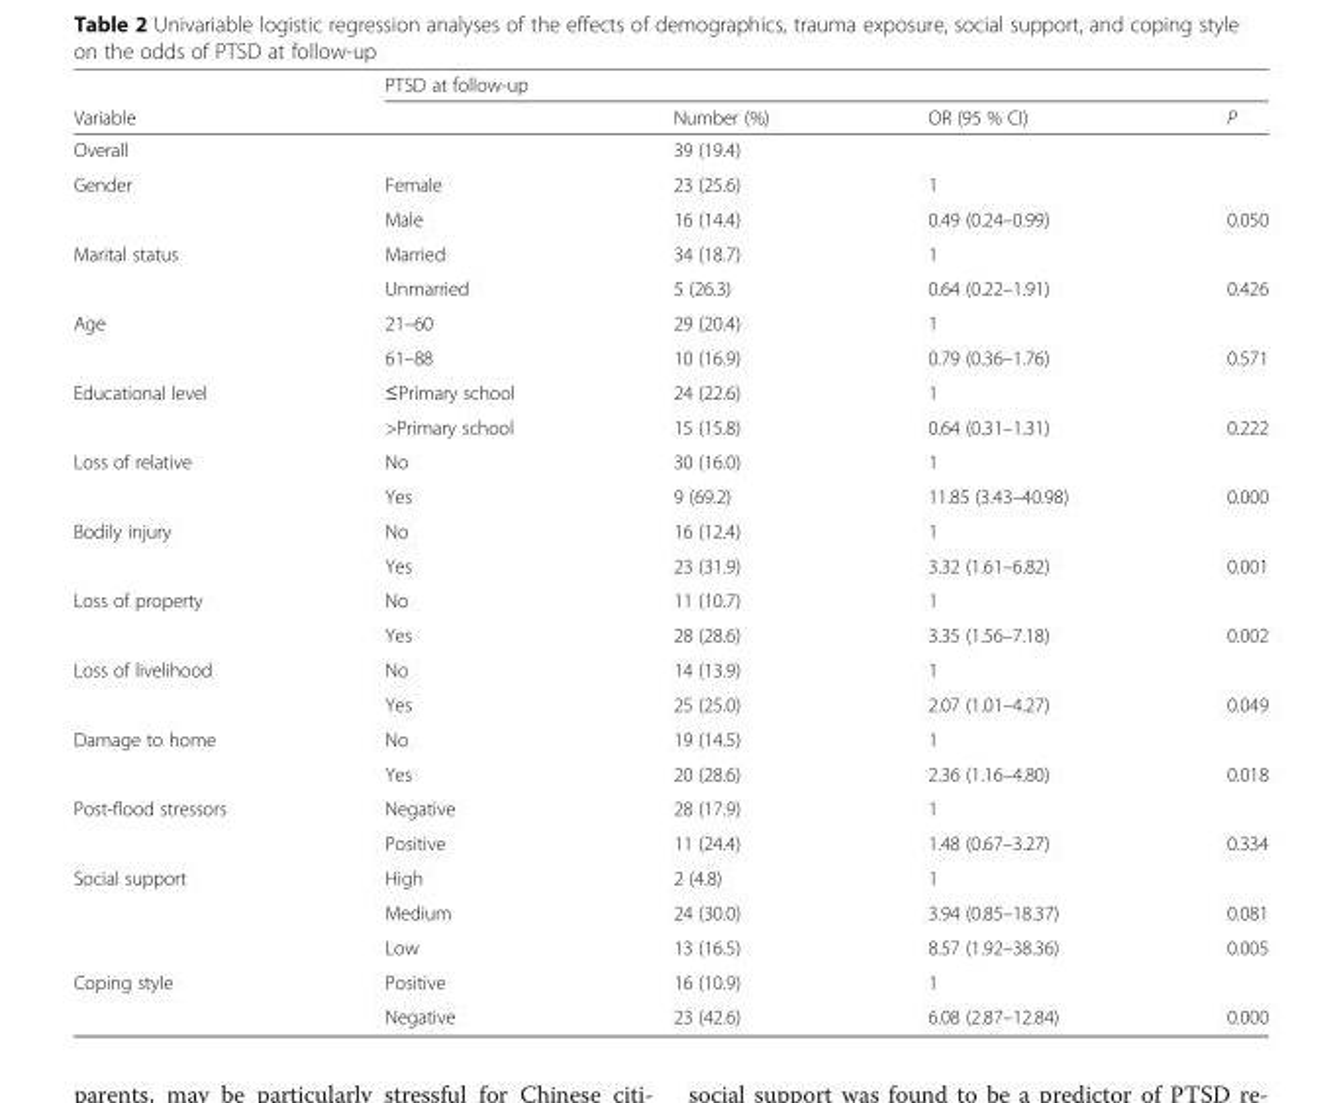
<table><thead><tr><td rowspan="2">Variable</td><td colspan="4">PTSD at follow-up</td></tr><tr><td></td><td>Number (%)</td><td>OR (95 % CI)</td><td>P</td></tr></thead><tbody><tr><td>Overall</td><td></td><td>39 (19.4)</td><td></td><td></td></tr><tr><td rowspan="2">Gender</td><td>Female</td><td>23 (25.6)</td><td>1</td><td></td></tr><tr><td>Male</td><td>16 (14.4)</td><td>0.49 (0.24–0.99)</td><td>0.050</td></tr><tr><td rowspan="2">Marital status</td><td>Married</td><td>34 (18.7)</td><td>1</td><td></td></tr><tr><td>Unmarried</td><td>5 (26.3)</td><td>0.64 (0.22–1.91)</td><td>0.426</td></tr><tr><td rowspan="2">Age</td><td>21–60</td><td>29 (20.4)</td><td>1</td><td></td></tr><tr><td>61–88</td><td>10 (16.9)</td><td>0.79 (0.36–1.76)</td><td>0.571</td></tr><tr><td rowspan="2">Educational level</td><td>≤Primary school</td><td>24 (22.6)</td><td>1</td><td></td></tr><tr><td>&gt;Primary school</td><td>15 (15.8)</td><td>0.64 (0.31–1.31)</td><td>0.222</td></tr><tr><td rowspan="2">Loss of relative</td><td>No</td><td>30 (16.0)</td><td>1</td><td></td></tr><tr><td>Yes</td><td>9 (69.2)</td><td>11.85 (3.43–40.98)</td><td>0.000</td></tr><tr><td rowspan="2">Bodily injury</td><td>No</td><td>16 (12.4)</td><td>1</td><td></td></tr><tr><td>Yes</td><td>23 (31.9)</td><td>3.32 (1.61–6.82)</td><td>0.001</td></tr><tr><td rowspan="2">Loss of property</td><td>No</td><td>11 (10.7)</td><td>1</td><td></td></tr><tr><td>Yes</td><td>28 (28.6)</td><td>3.35 (1.56–7.18)</td><td>0.002</td></tr><tr><td rowspan="2">Loss of livelihood</td><td>No</td><td>14 (13.9)</td><td>1</td><td></td></tr><tr><td>Yes</td><td>25 (25.0)</td><td>2.07 (1.01–4.27)</td><td>0.049</td></tr><tr><td rowspan="2">Damage to home</td><td>No</td><td>19 (14.5)</td><td>1</td><td></td></tr><tr><td>Yes</td><td>20 (28.6)</td><td>2.36 (1.16–4.80)</td><td>0.018</td></tr><tr><td rowspan="2">Post-flood stressors</td><td>Negative</td><td>28 (17.9)</td><td>1</td><td></td></tr><tr><td>Positive</td><td>11 (24.4)</td><td>1.48 (0.67–3.27)</td><td>0.334</td></tr><tr><td rowspan="3">Social support</td><td>High</td><td>2 (4.8)</td><td>1</td><td></td></tr><tr><td>Medium</td><td>24 (30.0)</td><td>3.94 (0.85–18.37)</td><td>0.081</td></tr><tr><td>Low</td><td>13 (16.5)</td><td>8.57 (1.92–38.36)</td><td>0.005</td></tr><tr><td rowspan="2">Coping style</td><td>Positive</td><td>16 (10.9)</td><td>1</td><td></td></tr><tr><td>Negative</td><td>23 (42.6)</td><td>6.08 (2.87–12.84)</td><td>0.000</td></tr></tbody></table>